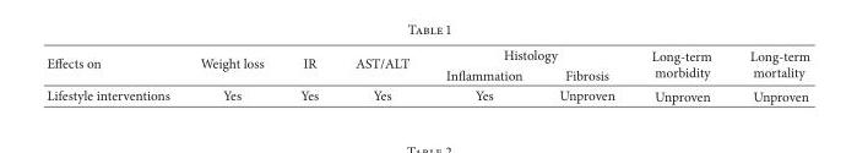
<table><thead><tr><td rowspan="2">Effects on</td><td rowspan="2">Weight loss</td><td rowspan="2">IR</td><td rowspan="2">AST/ALT</td><td colspan="2">Histology</td><td rowspan="2">Long-term morbidity</td><td rowspan="2">Long-term mortality</td></tr><tr><td>Inflammation</td><td>Fibrosis</td></tr></thead><tbody><tr><td>Lifestyle interventions</td><td>Yes</td><td>Yes</td><td>Yes</td><td>Yes</td><td>Unproven</td><td>Unproven</td><td>Unproven</td></tr></tbody></table>